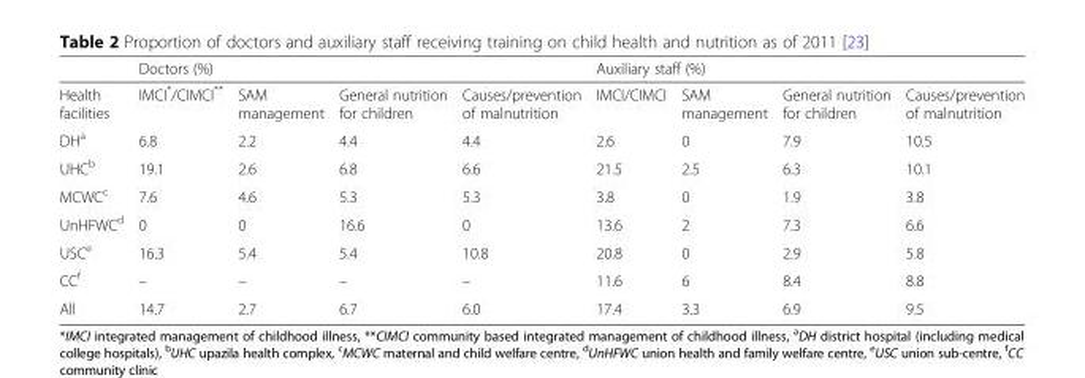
<table><thead><tr><td rowspan="2">Health facilities</td><td colspan="4">Doctors (%)</td><td colspan="4">Auxiliary staff (%)</td></tr><tr><td>IMCI*/CIMCI**</td><td>SAM management</td><td>General nutrition for children</td><td>Causes/prevention of malnutrition</td><td>IMCI/CIMCI</td><td>SAM management</td><td>General nutrition for children</td><td>Causes/prevention of malnutrition</td></tr></thead><tbody><tr><td>DH<sup>a</sup></td><td>6.8</td><td>2.2</td><td>4.4</td><td>4.4</td><td>2.6</td><td>0</td><td>7.9</td><td>10.5</td></tr><tr><td>UHC<sup>b</sup></td><td>19.1</td><td>2.6</td><td>6.8</td><td>6.6</td><td>21.5</td><td>2.5</td><td>6.3</td><td>10.1</td></tr><tr><td>MCWC<sup>c</sup></td><td>7.6</td><td>4.6</td><td>5.3</td><td>5.3</td><td>3.8</td><td>0</td><td>1.9</td><td>3.8</td></tr><tr><td>UnHFWC<sup>d</sup></td><td>0</td><td>0</td><td>16.6</td><td>0</td><td>13.6</td><td>2</td><td>7.3</td><td>6.6</td></tr><tr><td>USC<sup>e</sup></td><td>16.3</td><td>5.4</td><td>5.4</td><td>10.8</td><td>20.8</td><td>0</td><td>2.9</td><td>5.8</td></tr><tr><td>CC<sup>f</sup></td><td>–</td><td>–</td><td>–</td><td>–</td><td>11.6</td><td>6</td><td>8.4</td><td>8.8</td></tr><tr><td>All</td><td>14.7</td><td>2.7</td><td>6.7</td><td>6.0</td><td>17.4</td><td>3.3</td><td>6.9</td><td>9.5</td></tr></tbody></table>